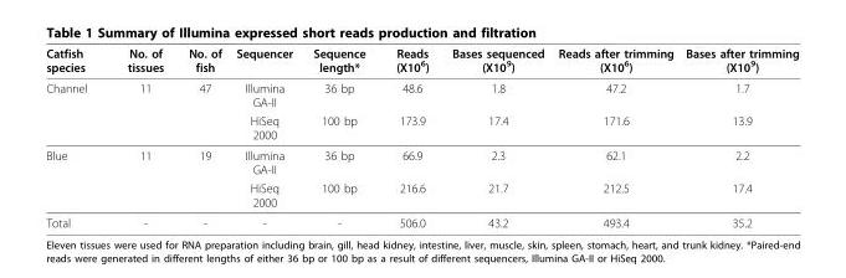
<table><thead><tr><td>Catfish species</td><td>No. of tissues</td><td>No. of fish</td><td>Sequencer</td><td>Sequence length*</td><td>Reads (X10<sup>6</sup>)</td><td>Bases sequenced (X10<sup>9</sup>)</td><td>Reads after trimming (X10<sup>6</sup>)</td><td>Bases after trimming (X10<sup>9</sup>)</td></tr></thead><tbody><tr><td rowspan="2">Channel</td><td>11</td><td>47</td><td>Illumina GA-II</td><td>36 bp</td><td>48.6</td><td>1.8</td><td>47.2</td><td>1.7</td></tr><tr><td></td><td></td><td>HiSeq 2000</td><td>100 bp</td><td>173.9</td><td>17.4</td><td>171.6</td><td>13.9</td></tr><tr><td rowspan="2">Blue</td><td>11</td><td>19</td><td>Illumina GA-II</td><td>36 bp</td><td>66.9</td><td>2.3</td><td>62.1</td><td>2.2</td></tr><tr><td></td><td></td><td>HiSeq 2000</td><td>100 bp</td><td>216.6</td><td>21.7</td><td>212.5</td><td>17.4</td></tr><tr><td>Total</td><td>-</td><td>-</td><td>-</td><td>-</td><td>506.0</td><td>43.2</td><td>493.4</td><td>35.2</td></tr></tbody></table>